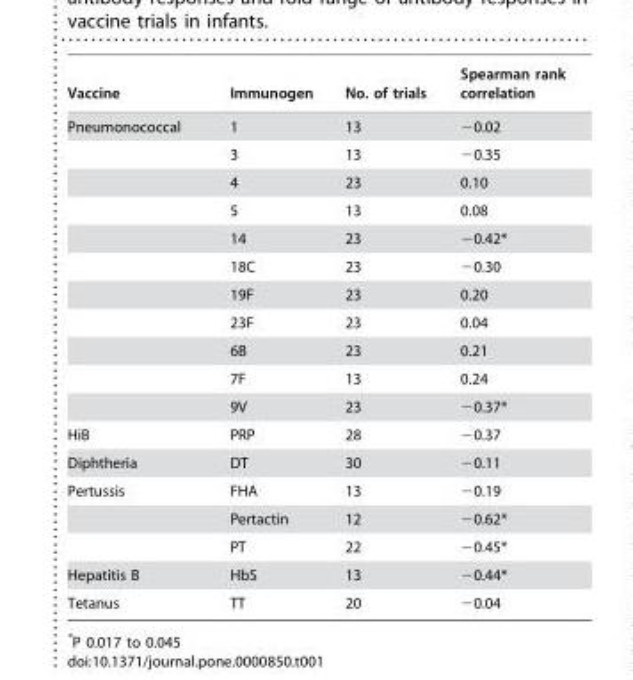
<table><thead><tr><td>Vaccine</td><td>Immunogen</td><td>No. of trials</td><td>Spearman rank correlation</td></tr></thead><tbody><tr><td rowspan="11">Pneumonococcal</td><td>1</td><td>13</td><td>−0.02</td></tr><tr><td>3</td><td>13</td><td>−0.35</td></tr><tr><td>4</td><td>23</td><td>0.10</td></tr><tr><td>5</td><td>13</td><td>0.08</td></tr><tr><td>14</td><td>23</td><td>−0.42*</td></tr><tr><td>18C</td><td>23</td><td>−0.30</td></tr><tr><td>19F</td><td>23</td><td>0.20</td></tr><tr><td>23F</td><td>23</td><td>0.04</td></tr><tr><td>6B</td><td>23</td><td>0.21</td></tr><tr><td>7F</td><td>13</td><td>0.24</td></tr><tr><td>9V</td><td>23</td><td>−0.37*</td></tr><tr><td>HiB</td><td>PRP</td><td>28</td><td>−0.37</td></tr><tr><td>Diphtheria</td><td>DT</td><td>30</td><td>−0.11</td></tr><tr><td rowspan="3">Pertussis</td><td>FHA</td><td>13</td><td>−0.19</td></tr><tr><td>Pertactin</td><td>12</td><td>−0.62*</td></tr><tr><td>PT</td><td>22</td><td>−0.45*</td></tr><tr><td>Hepatitis B</td><td>HbS</td><td>13</td><td>−0.44*</td></tr><tr><td>Tetanus</td><td>TT</td><td>20</td><td>−0.04</td></tr></tbody></table>